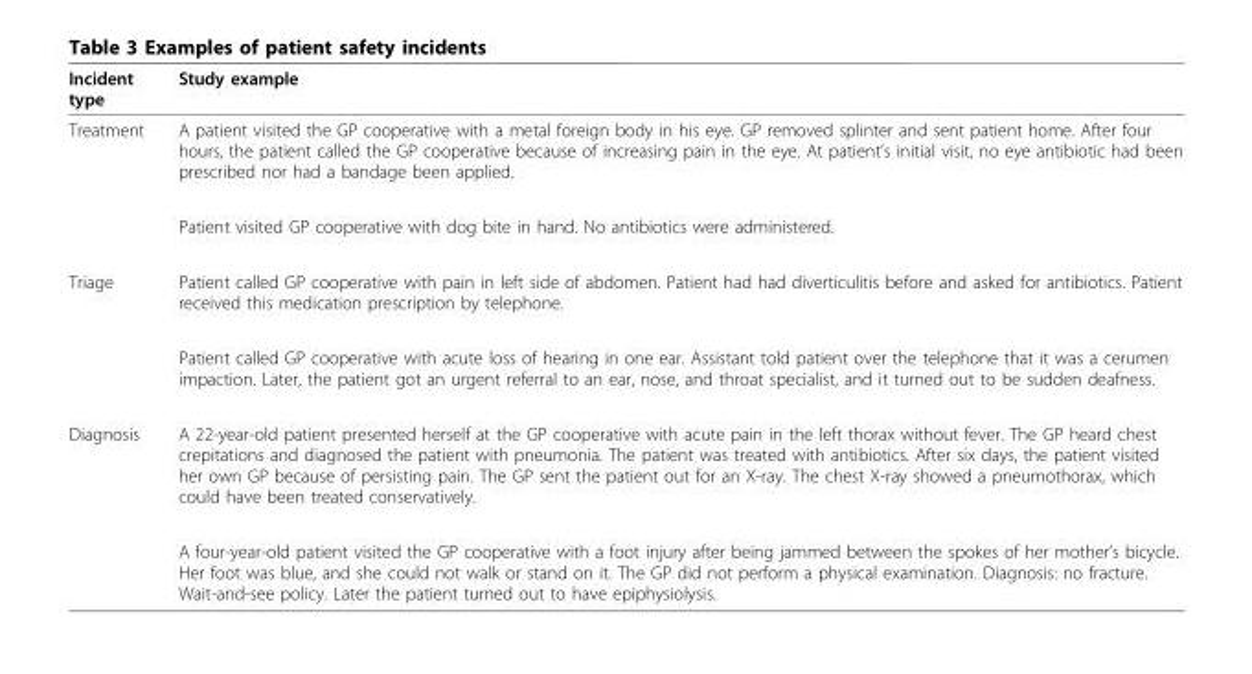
<table><thead><tr><td>Incident type</td><td>Study example</td></tr></thead><tbody><tr><td rowspan="2">Treatment</td><td>A patient visited the GP cooperative with a metal foreign body in his eye. GP removed splinter and sent patient home. After four hours, the patient called the GP cooperative because of increasing pain in the eye. At patient’s initial visit, no eye antibiotic had been prescribed nor had a bandage been applied.</td></tr><tr><td>Patient visited GP cooperative with dog bite in hand. No antibiotics were administered.</td></tr><tr><td rowspan="2">Triage</td><td>Patient called GP cooperative with pain in left side of abdomen. Patient had had diverticulitis before and asked for antibiotics. Patient received this medication prescription by telephone.</td></tr><tr><td>Patient called GP cooperative with acute loss of hearing in one ear. Assistant told patient over the telephone that it was a cerumen impaction. Later, the patient got an urgent referral to an ear, nose, and throat specialist, and it turned out to be sudden deafness.</td></tr><tr><td rowspan="2">Diagnosis</td><td>A 22-year-old patient presented herself at the GP cooperative with acute pain in the left thorax without fever. The GP heard chest crepitations and diagnosed the patient with pneumonia. The patient was treated with antibiotics. After six days, the patient visited her own GP because of persisting pain. The GP sent the patient out for an X-ray. The chest X-ray showed a pneumothorax, which could have been treated conservatively.</td></tr><tr><td>A four-year-old patient visited the GP cooperative with a foot injury after being jammed between the spokes of her mother’s bicycle. Her foot was blue, and she could not walk or stand on it. The GP did not perform a physical examination. Diagnosis: no fracture. Wait-and-see policy. Later the patient turned out to have epiphysiolysis.</td></tr></tbody></table>